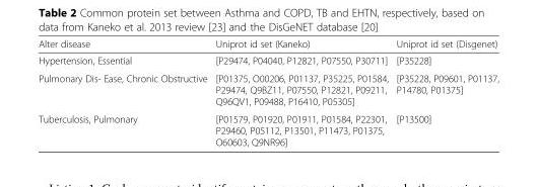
<table><thead><tr><td>Alter disease</td><td>Uniprot id set (Kaneko)</td><td>Uniprot id set (Disgenet)</td></tr></thead><tbody><tr><td>Hypertension, Essential</td><td>[P29474, P04040, P12821, P07550, P30711]</td><td>[P35228]</td></tr><tr><td>Pulmonary Dis- Ease, Chronic Obstructive</td><td>[P01375, O00206, P01137, P35225, P01584, P29474, Q9BZ11, P07550, P12821, P09211, Q96QV1, P09488, P16410, P05305]</td><td>[P35228, P09601, P01137, P14780, P01375]</td></tr><tr><td>Tuberculosis, Pulmonary</td><td>[P01579, P01920, P01911, P01584, P22301, P29460, P05112, P13501, P11473, P01375, O60603, Q9NR96]</td><td>[P13500]</td></tr></tbody></table>